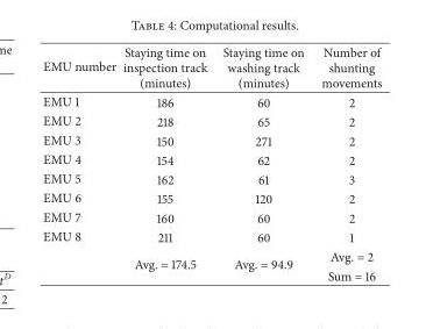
<table><thead><tr><td>EMU number</td><td>Staying time on inspection track (minutes)</td><td>Staying time on washing track (minutes)</td><td>Number of shunting movements</td></tr></thead><tbody><tr><td>EMU 1</td><td>186</td><td>60</td><td>2</td></tr><tr><td>EMU 2</td><td>218</td><td>65</td><td>2</td></tr><tr><td>EMU 3</td><td>150</td><td>271</td><td>2</td></tr><tr><td>EMU 4</td><td>154</td><td>62</td><td>2</td></tr><tr><td>EMU 5</td><td>162</td><td>61</td><td>3</td></tr><tr><td>EMU 6</td><td>155</td><td>120</td><td>2</td></tr><tr><td>EMU 7</td><td>160</td><td>60</td><td>2</td></tr><tr><td rowspan="3">EMU 8</td><td>211</td><td>60</td><td>1</td></tr><tr><td rowspan="2">Avg. = 174.5</td><td rowspan="2">Avg. = 94.9</td><td>Avg. = 2</td></tr><tr><td>Sum = 16</td></tr></tbody></table>